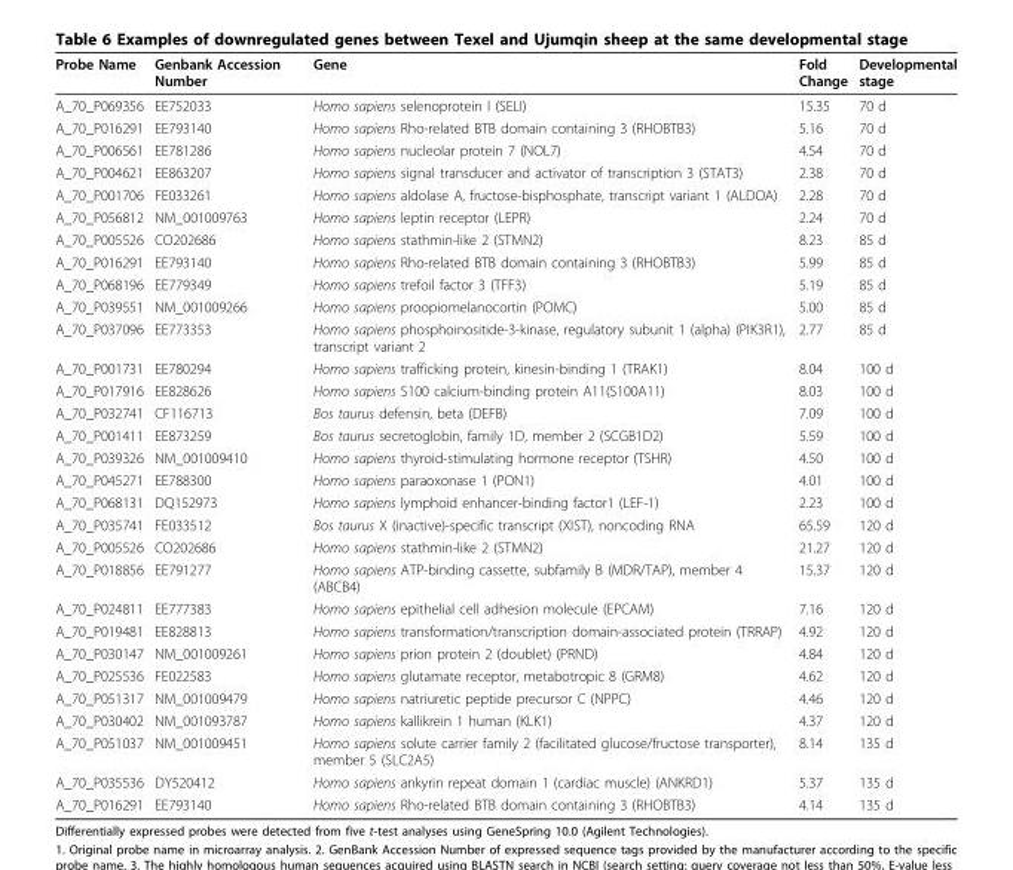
<table><thead><tr><td>Probe Name</td><td>Genbank Accession Number</td><td>Gene</td><td>Fold Change</td><td>Developmental stage</td></tr></thead><tbody><tr><td>A_70_P069356</td><td>EE752033</td><td>Homo sapiens selenoprotein I (SELI)</td><td>15.35</td><td>70 d</td></tr><tr><td>A_70_P016291</td><td>EE793140</td><td>Homo sapiens Rho-related BTB domain containing 3 (RHOBTB3)</td><td>5.16</td><td>70 d</td></tr><tr><td>A_70_P006561</td><td>EE781286</td><td>Homo sapiens nucleolar protein 7 (NOL7)</td><td>4.54</td><td>70 d</td></tr><tr><td>A_70_P004621</td><td>EE863207</td><td>Homo sapiens signal transducer and activator of transcription 3 (STAT3)</td><td>2.38</td><td>70 d</td></tr><tr><td>A_70_P001706</td><td>FE033261</td><td>Homo sapiens aldolase A, fructose-bisphosphate, transcript variant 1 (ALDOA)</td><td>2.28</td><td>70 d</td></tr><tr><td>A_70_P056812</td><td>NM_001009763</td><td>Homo sapiens leptin receptor (LEPR)</td><td>2.24</td><td>70 d</td></tr><tr><td>A_70_P005526</td><td>CO202686</td><td>Homo sapiens stathmin-like 2 (STMN2)</td><td>8.23</td><td>85 d</td></tr><tr><td>A_70_P016291</td><td>EE793140</td><td>Homo sapiens Rho-related BTB domain containing 3 (RHOBTB3)</td><td>5.99</td><td>85 d</td></tr><tr><td>A_70_P068196</td><td>EE779349</td><td>Homo sapiens trefoil factor 3 (TFF3)</td><td>5.19</td><td>85 d</td></tr><tr><td>A_70_P039551</td><td>NM_001009266</td><td>Homo sapiens proopiomelanocortin (POMC)</td><td>5.00</td><td>85 d</td></tr><tr><td>A_70_P037096</td><td>EE773353</td><td>Homo sapiens phosphoinositide-3-kinase, regulatory subunit 1 (alpha) (PIK3R1), transcript variant 2</td><td>2.77</td><td>85 d</td></tr><tr><td>A_70_P001731</td><td>EE780294</td><td>Homo sapiens trafficking protein, kinesin-binding 1 (TRAK1)</td><td>8.04</td><td>100 d</td></tr><tr><td>A_70_P017916</td><td>EE828626</td><td>Homo sapiens S100 calcium-binding protein A11(S100A11)</td><td>8.03</td><td>100 d</td></tr><tr><td>A_70_P032741</td><td>CF116713</td><td>Bos taurus defensin, beta (DEFB)</td><td>7.09</td><td>100 d</td></tr><tr><td>A_70_P001411</td><td>EE873259</td><td>Bos taurus secretoglobin, family 1D, member 2 (SCGB1D2)</td><td>5.59</td><td>100 d</td></tr><tr><td>A_70_P039326</td><td>NM_001009410</td><td>Homo sapiens thyroid-stimulating hormone receptor (TSHR)</td><td>4.50</td><td>100 d</td></tr><tr><td>A_70_P045271</td><td>EE788300</td><td>Homo sapiens paraoxonase 1 (PON1)</td><td>4.01</td><td>100 d</td></tr><tr><td>A_70_P068131</td><td>DQ152973</td><td>Homo sapiens lymphoid enhancer-binding factor1 (LEF-1)</td><td>2.23</td><td>100 d</td></tr><tr><td>A_70_P035741</td><td>FE033512</td><td>Bos taurus X (inactive)-specific transcript (XIST), noncoding RNA</td><td>65.59</td><td>120 d</td></tr><tr><td>A_70_P005526</td><td>CO202686</td><td>Homo sapiens stathmin-like 2 (STMN2)</td><td>21.27</td><td>120 d</td></tr><tr><td>A_70_P018856</td><td>EE791277</td><td>Homo sapiens ATP-binding cassette, subfamily B (MDR/TAP), member 4 (ABCB4)</td><td>15.37</td><td>120 d</td></tr><tr><td>A_70_P024811</td><td>EE777383</td><td>Homo sapiens epithelial cell adhesion molecule (EPCAM)</td><td>7.16</td><td>120 d</td></tr><tr><td>A_70_P019481</td><td>EE828813</td><td>Homo sapiens transformation/transcription domain-associated protein (TRRAP)</td><td>4.92</td><td>120 d</td></tr><tr><td>A_70_P030147</td><td>NM_001009261</td><td>Homo sapiens prion protein 2 (doublet) (PRND)</td><td>4.84</td><td>120 d</td></tr><tr><td>A_70_P025536</td><td>FE022583</td><td>Homo sapiens glutamate receptor, metabotropic 8 (GRM8)</td><td>4.62</td><td>120 d</td></tr><tr><td>A_70_P051317</td><td>NM_001009479</td><td>Homo sapiens natriuretic peptide precursor C (NPPC)</td><td>4.46</td><td>120 d</td></tr><tr><td>A_70_P030402</td><td>NM_001093787</td><td>Homo sapiens kallikrein 1 human (KLK1)</td><td>4.37</td><td>120 d</td></tr><tr><td>A_70_P051037</td><td>NM_001009451</td><td>Homo sapiens solute carrier family 2 (facilitated glucose/fructose transporter), member 5 (SLC2A5)</td><td>8.14</td><td>135 d</td></tr><tr><td>A_70_P035536</td><td>DY520412</td><td>Homo sapiens ankyrin repeat domain 1 (cardiac muscle) (ANKRD1)</td><td>5.37</td><td>135 d</td></tr><tr><td>A_70_P016291</td><td>EE793140</td><td>Homo sapiens Rho-related BTB domain containing 3 (RHOBTB3)</td><td>4.14</td><td>135 d</td></tr></tbody></table>